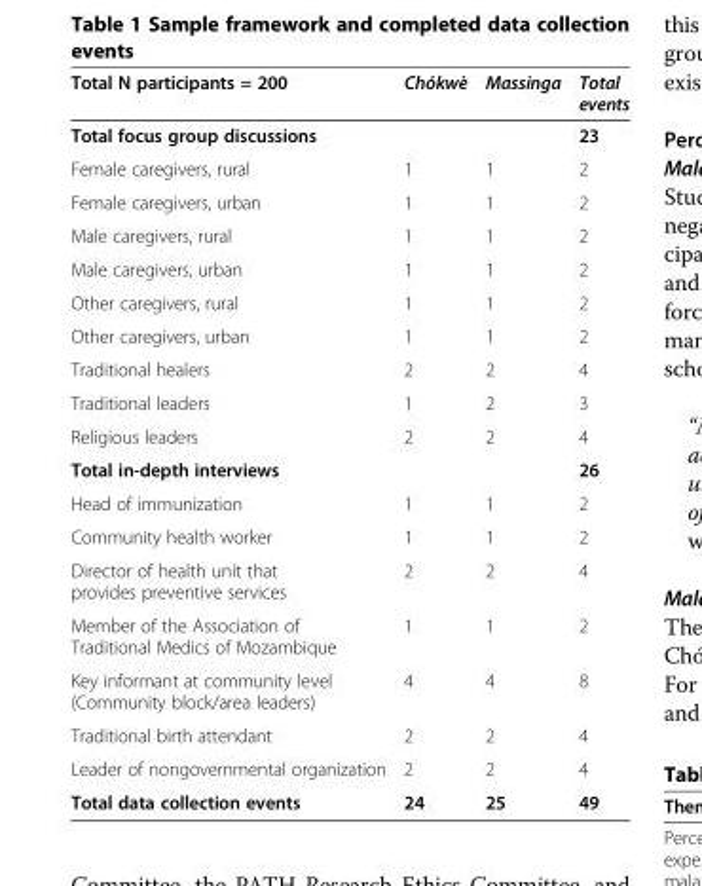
<table><thead><tr><td>Total N participants = 200</td><td>Chókwè</td><td>Massinga</td><td>Total events</td></tr></thead><tbody><tr><td>Total focus group discussions</td><td></td><td></td><td>23</td></tr><tr><td>Female caregivers, rural</td><td>1</td><td>1</td><td>2</td></tr><tr><td>Female caregivers, urban</td><td>1</td><td>1</td><td>2</td></tr><tr><td>Male caregivers, rural</td><td>1</td><td>1</td><td>2</td></tr><tr><td>Male caregivers, urban</td><td>1</td><td>1</td><td>2</td></tr><tr><td>Other caregivers, rural</td><td>1</td><td>1</td><td>2</td></tr><tr><td>Other caregivers, urban</td><td>1</td><td>1</td><td>2</td></tr><tr><td>Traditional healers</td><td>2</td><td>2</td><td>4</td></tr><tr><td>Traditional leaders</td><td>1</td><td>2</td><td>3</td></tr><tr><td>Religious leaders</td><td>2</td><td>2</td><td>4</td></tr><tr><td>Total in-depth interviews</td><td></td><td></td><td>26</td></tr><tr><td>Head of immunization</td><td>1</td><td>1</td><td>2</td></tr><tr><td>Community health worker</td><td>1</td><td>1</td><td>2</td></tr><tr><td>Director of health unit that provides preventive services</td><td>2</td><td>2</td><td>4</td></tr><tr><td>Member of the Association of Traditional Medics of Mozambique</td><td>1</td><td>1</td><td>2</td></tr><tr><td>Key informant at community level (Community block/area leaders)</td><td>4</td><td>4</td><td>8</td></tr><tr><td>Traditional birth attendant</td><td>2</td><td>2</td><td>4</td></tr><tr><td>Leader of nongovernmental organization</td><td>2</td><td>2</td><td>4</td></tr><tr><td>Total data collection events</td><td>24</td><td>25</td><td>49</td></tr></tbody></table>